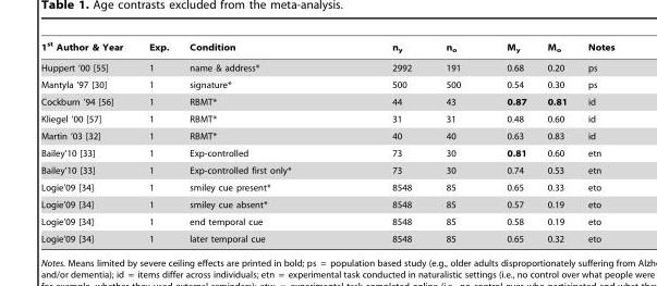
<table><thead><tr><td>1<sup>st</sup> Author &amp; Year</td><td>Exp.</td><td>Condition</td><td>n<sub>y</sub></td><td>n<sub>o</sub></td><td>M<sub>y</sub></td><td>M<sub>o</sub></td><td>Notes</td></tr></thead><tbody><tr><td>Huppert ’00 [55]</td><td>1</td><td>name &amp; address*</td><td>2992</td><td>191</td><td>0.68</td><td>0.20</td><td>ps</td></tr><tr><td>Mantyla ’97 [30]</td><td>1</td><td>signature*</td><td>500</td><td>500</td><td>0.54</td><td>0.30</td><td>ps</td></tr><tr><td>Cockburn ’94 [56]</td><td>1</td><td>RBMT*</td><td>44</td><td>43</td><td>0.87</td><td>0.81</td><td>id</td></tr><tr><td>Kliegel ’00 [57]</td><td>1</td><td>RBMT*</td><td>31</td><td>31</td><td>0.48</td><td>0.60</td><td>id</td></tr><tr><td>Martin ’03 [32]</td><td>1</td><td>RBMT*</td><td>40</td><td>40</td><td>0.63</td><td>0.83</td><td>id</td></tr><tr><td>Bailey’10 [33]</td><td>1</td><td>Exp-controlled</td><td>73</td><td>30</td><td>0.81</td><td>0.60</td><td>etn</td></tr><tr><td>Bailey’10 [33]</td><td>1</td><td>Exp-controlled first only*</td><td>73</td><td>30</td><td>0.74</td><td>0.53</td><td>etn</td></tr><tr><td>Logie’09 [34]</td><td>1</td><td>smiley cue present*</td><td>8548</td><td>85</td><td>0.65</td><td>0.33</td><td>eto</td></tr><tr><td>Logie’09 [34]</td><td>1</td><td>smiley cue absent*</td><td>8548</td><td>85</td><td>0.57</td><td>0.19</td><td>eto</td></tr><tr><td>Logie’09 [34]</td><td>1</td><td>end temporal cue</td><td>8548</td><td>85</td><td>0.58</td><td>0.19</td><td>eto</td></tr><tr><td>Logie’09 [34]</td><td>1</td><td>later temporal cue</td><td>8548</td><td>85</td><td>0.65</td><td>0.32</td><td>eto</td></tr></tbody></table>